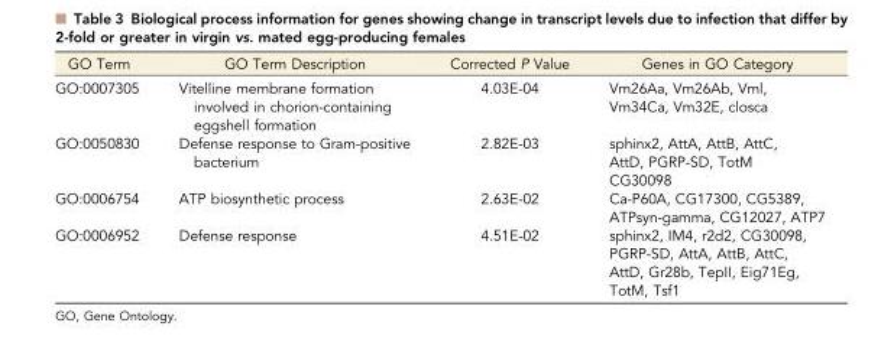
<table><thead><tr><td>GO Term</td><td>GO Term Description</td><td>Corrected P Value</td><td>Genes in GO Category</td></tr></thead><tbody><tr><td rowspan="2">GO:0007305</td><td rowspan="2">Vitelline membrane formation involved in chorion-containing eggshell formation</td><td rowspan="2">4.03E-04</td><td>Vm26Aa, Vm26Ab, Vml,</td></tr><tr><td>Vm34Ca, Vm32E, closca</td></tr><tr><td rowspan="3">GO:0050830</td><td rowspan="3">Defense response to Gram-positive bacterium</td><td rowspan="3">2.82E-03</td><td>sphinx2, AttA, AttB, AttC,</td></tr><tr><td>AttD, PGRP-SD, TotM</td></tr><tr><td>CG30098</td></tr><tr><td rowspan="2">GO:0006754</td><td rowspan="2">ATP biosynthetic process</td><td rowspan="2">2.63E-02</td><td>Ca-P60A, CG17300, CG5389,</td></tr><tr><td>ATPsyn-gamma, CG12027, ATP7</td></tr><tr><td rowspan="4">GO:0006952</td><td rowspan="4">Defense response</td><td rowspan="4">4.51E-02</td><td>sphinx2, IM4, r2d2, CG30098,</td></tr><tr><td>PGRP-SD, AttA, AttB, AttC,</td></tr><tr><td>AttD, Gr28b, TepII, Eig71Eg,</td></tr><tr><td>TotM, Tsf1</td></tr></tbody></table>